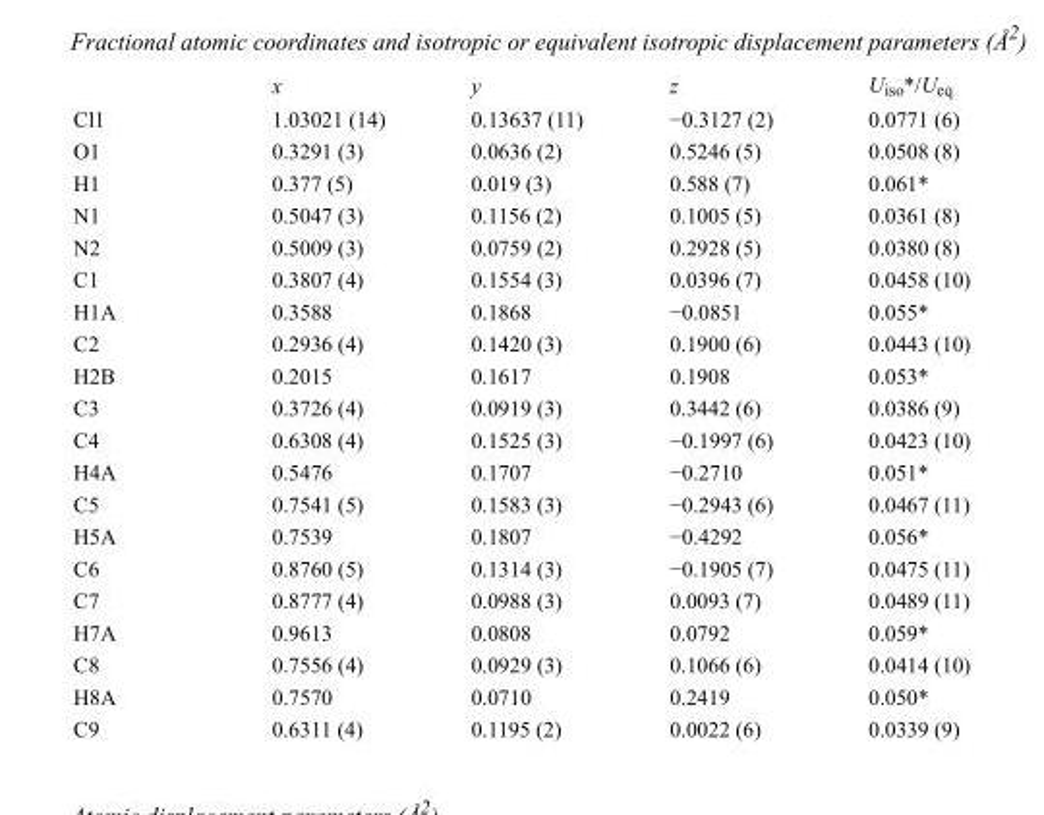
<table><thead><tr><td></td><td>x</td><td>y</td><td>z</td><td>U<sub>iso</sub>*/U<sub>eq</sub></td></tr></thead><tbody><tr><td>Cl1</td><td>1.03021 (14)</td><td>0.13637 (11)</td><td>−0.3127 (2)</td><td>0.0771 (6)</td></tr><tr><td>O1</td><td>0.3291 (3)</td><td>0.0636 (2)</td><td>0.5246 (5)</td><td>0.0508 (8)</td></tr><tr><td>H1</td><td>0.377 (5)</td><td>0.019 (3)</td><td>0.588 (7)</td><td>0.061*</td></tr><tr><td>N1</td><td>0.5047 (3)</td><td>0.1156 (2)</td><td>0.1005 (5)</td><td>0.0361 (8)</td></tr><tr><td>N2</td><td>0.5009 (3)</td><td>0.0759 (2)</td><td>0.2928 (5)</td><td>0.0380 (8)</td></tr><tr><td>C1</td><td>0.3807 (4)</td><td>0.1554 (3)</td><td>0.0396 (7)</td><td>0.0458 (10)</td></tr><tr><td>H1A</td><td>0.3588</td><td>0.1868</td><td>−0.0851</td><td>0.055*</td></tr><tr><td>C2</td><td>0.2936 (4)</td><td>0.1420 (3)</td><td>0.1900 (6)</td><td>0.0443 (10)</td></tr><tr><td>H2B</td><td>0.2015</td><td>0.1617</td><td>0.1908</td><td>0.053*</td></tr><tr><td>C3</td><td>0.3726 (4)</td><td>0.0919 (3)</td><td>0.3442 (6)</td><td>0.0386 (9)</td></tr><tr><td>C4</td><td>0.6308 (4)</td><td>0.1525 (3)</td><td>−0.1997 (6)</td><td>0.0423 (10)</td></tr><tr><td>H4A</td><td>0.5476</td><td>0.1707</td><td>−0.2710</td><td>0.051*</td></tr><tr><td>C5</td><td>0.7541 (5)</td><td>0.1583 (3)</td><td>−0.2943 (6)</td><td>0.0467 (11)</td></tr><tr><td>H5A</td><td>0.7539</td><td>0.1807</td><td>−0.4292</td><td>0.056*</td></tr><tr><td>C6</td><td>0.8760 (5)</td><td>0.1314 (3)</td><td>−0.1905 (7)</td><td>0.0475 (11)</td></tr><tr><td>C7</td><td>0.8777 (4)</td><td>0.0988 (3)</td><td>0.0093 (7)</td><td>0.0489 (11)</td></tr><tr><td>H7A</td><td>0.9613</td><td>0.0808</td><td>0.0792</td><td>0.059*</td></tr><tr><td>C8</td><td>0.7556 (4)</td><td>0.0929 (3)</td><td>0.1066 (6)</td><td>0.0414 (10)</td></tr><tr><td>H8A</td><td>0.7570</td><td>0.0710</td><td>0.2419</td><td>0.050*</td></tr><tr><td>C9</td><td>0.6311 (4)</td><td>0.1195 (2)</td><td>0.0022 (6)</td><td>0.0339 (9)</td></tr></tbody></table>